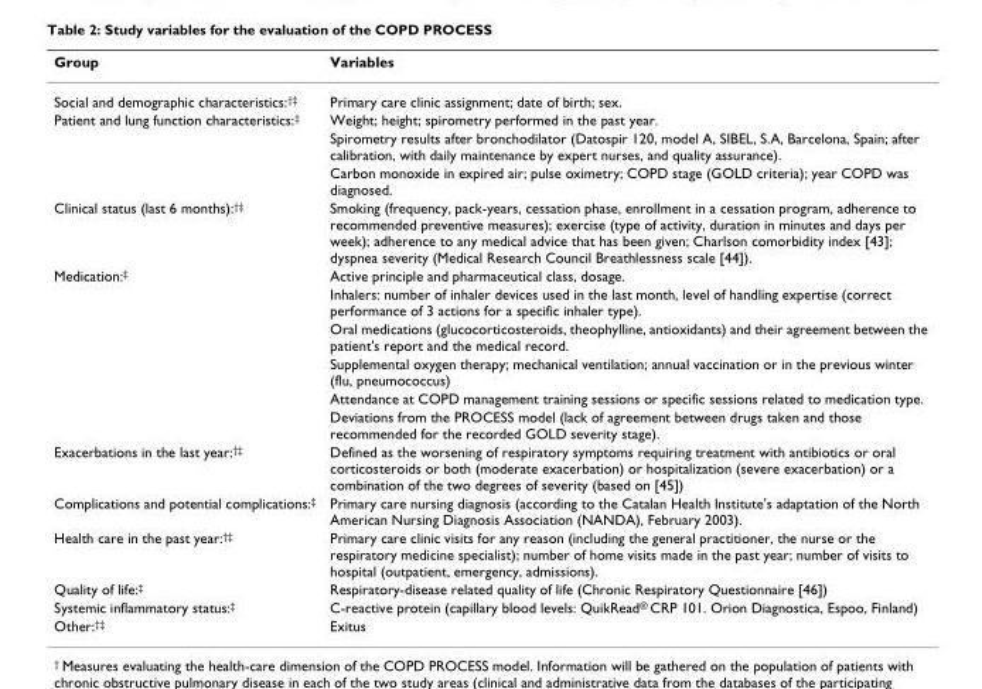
<table><thead><tr><td>Group</td><td>Variables</td></tr></thead><tbody><tr><td>Social and demographic characteristics:<sup>†‡</sup></td><td>Primary care clinic assignment; date of birth; sex.</td></tr><tr><td rowspan="3">Patient and lung function characteristics:<sup>‡</sup></td><td>Weight; height; spirometry performed in the past year.</td></tr><tr><td>Spirometry results after bronchodilator (Datospir 120, model A, SIBEL, S.A, Barcelona, Spain; after calibration, with daily maintenance by expert nurses, and quality assurance).</td></tr><tr><td>Carbon monoxide in expired air; pulse oximetry; COPD stage (GOLD criteria); year COPD was diagnosed.</td></tr><tr><td>Clinical status (last 6 months):<sup>†‡</sup></td><td>Smoking (frequency, pack-years, cessation phase, enrollment in a cessation program, adherence to recommended preventive measures); exercise (type of activity, duration in minutes and days per week); adherence to any medical advice that has been given; Charlson comorbidity index [43]; dyspnea severity (Medical Research Council Breathlessness scale [44]).</td></tr><tr><td rowspan="6">Medication:<sup>‡</sup></td><td>Active principle and pharmaceutical class, dosage.</td></tr><tr><td>Inhalers: number of inhaler devices used in the last month, level of handling expertise (correct performance of 3 actions for a specific inhaler type).</td></tr><tr><td>Oral medications (glucocorticosteroids, theophylline, antioxidants) and their agreement between the patient&#x27;s report and the medical record.</td></tr><tr><td>Supplemental oxygen therapy; mechanical ventilation; annual vaccination or in the previous winter (flu, pneumococcus)</td></tr><tr><td>Attendance at COPD management training sessions or specific sessions related to medication type.</td></tr><tr><td>Deviations from the PROCESS model (lack of agreement between drugs taken and those recommended for the recorded GOLD severity stage).</td></tr><tr><td>Exacerbations in the last year:<sup>†‡</sup></td><td>Defined as the worsening of respiratory symptoms requiring treatment with antibiotics or oral corticosteroids or both (moderate exacerbation) or hospitalization (severe exacerbation) or a combination of the two degrees of severity (based on [45])</td></tr><tr><td>Complications and potential complications:<sup>‡</sup></td><td>Primary care nursing diagnosis (according to the Catalan Health Institute&#x27;s adaptation of the North American Nursing Diagnosis Association (NANDA), February 2003).</td></tr><tr><td>Health care in the past year:<sup>†‡</sup></td><td>Primary care clinic visits for any reason (including the general practitioner, the nurse or the respiratory medicine specialist); number of home visits made in the past year; number of visits to hospital (outpatient, emergency, admissions).</td></tr><tr><td>Quality of life:<sup>‡</sup></td><td>Respiratory-disease related quality of life (Chronic Respiratory Questionnaire [46])</td></tr><tr><td>Systemic inflammatory status:<sup>‡</sup></td><td>C-reactive protein (capillary blood levels: QuikRead<sup>®</sup> CRP 101. Orion Diagnostica, Espoo, Finland)</td></tr><tr><td>Other:<sup>†‡</sup></td><td>Exitus</td></tr></tbody></table>